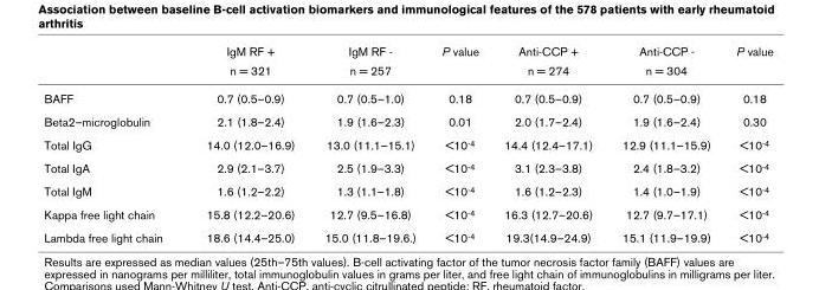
<table><thead><tr><td rowspan="2"></td><td rowspan="2">IgM RF + n = 321</td><td rowspan="2">IgM RF - n = 257</td><td rowspan="2">P value</td><td rowspan="2">Anti-CCP + n = 274</td><td rowspan="2">Anti-CCP - n = 304</td><td rowspan="2">P value</td></tr><tr></tr></thead><tbody><tr><td>BAFF</td><td>0.7 (0.5–0.9)</td><td>0.7 (0.5–1.0)</td><td>0.18</td><td>0.7 (0.5–0.9)</td><td>0.7 (0.5–0.9)</td><td>0.18</td></tr><tr><td>Beta2–microglobulin</td><td>2.1 (1.8–2.4)</td><td>1.9 (1.6–2.3)</td><td>0.01</td><td>2.0 (1.7–2.4)</td><td>1.9 (1.6–2.4)</td><td>0.30</td></tr><tr><td>Total IgG</td><td>14.0 (12.0–16.9)</td><td>13.0 (11.1–15.1)</td><td>&lt;10<sup>-4</sup></td><td>14.4 (12.4–17.1)</td><td>12.9 (11.1–15.9)</td><td>&lt;10<sup>-4</sup></td></tr><tr><td>Total IgA</td><td>2.9 (2.1–3.7)</td><td>2.5 (1.9–3.3)</td><td>&lt;10<sup>-4</sup></td><td>3.1 (2.3–3.8)</td><td>2.4 (1.8–3.2)</td><td>&lt;10<sup>-4</sup></td></tr><tr><td>Total IgM</td><td>1.6 (1.2–2.2)</td><td>1.3 (1.1–1.8)</td><td>&lt;10<sup>-4</sup></td><td>1.6 (1.2–2.3)</td><td>1.4 (1.0–1.9)</td><td>&lt;10<sup>-4</sup></td></tr><tr><td>Kappa free light chain</td><td>15.8 (12.2–20.6)</td><td>12.7 (9.5–16.8)</td><td>&lt;10<sup>-4</sup></td><td>16.3 (12.7–20.6)</td><td>12.7 (9.7–17.1)</td><td>&lt;10<sup>-4</sup></td></tr><tr><td>Lambda free light chain</td><td>18.6 (14.4–25.0)</td><td>15.0 (11.8–19.6.)</td><td>&lt;10<sup>-4</sup></td><td>19.3(14.9–24.9)</td><td>15.1 (11.9–19.9)</td><td>&lt;10<sup>-4</sup></td></tr></tbody></table>